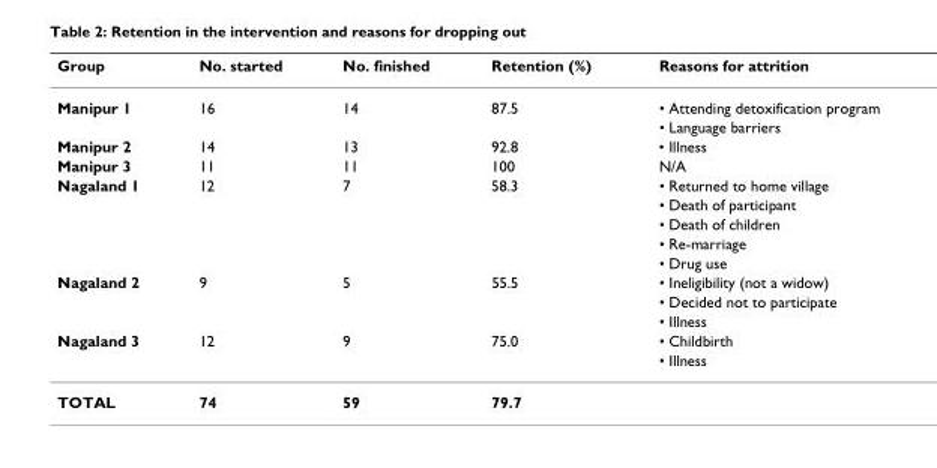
<table><thead><tr><td>Group</td><td>No. started</td><td>No. finished</td><td>Retention (%)</td><td>Reasons for attrition</td></tr></thead><tbody><tr><td rowspan="2">Manipur 1</td><td>16</td><td>14</td><td>87.5</td><td>• Attending detoxification program</td></tr><tr><td></td><td></td><td></td><td>• Language barriers</td></tr><tr><td>Manipur 2</td><td>14</td><td>13</td><td>92.8</td><td>• Illness</td></tr><tr><td>Manipur 3</td><td>11</td><td>11</td><td>100</td><td>N/A</td></tr><tr><td rowspan="5">Nagaland 1</td><td>12</td><td>7</td><td>58.3</td><td>• Returned to home village</td></tr><tr><td></td><td></td><td></td><td>• Death of participant</td></tr><tr><td></td><td></td><td></td><td>• Death of children</td></tr><tr><td></td><td></td><td></td><td>• Re-marriage</td></tr><tr><td></td><td></td><td></td><td>• Drug use</td></tr><tr><td rowspan="3">Nagaland 2</td><td>9</td><td>5</td><td>55.5</td><td>• Ineligibility (not a widow)</td></tr><tr><td></td><td></td><td></td><td>• Decided not to participate</td></tr><tr><td></td><td></td><td></td><td>• Illness</td></tr><tr><td rowspan="2">Nagaland 3</td><td>12</td><td>9</td><td>75.0</td><td>• Childbirth</td></tr><tr><td></td><td></td><td></td><td>• Illness</td></tr><tr><td>TOTAL</td><td>74</td><td>59</td><td>79.7</td><td></td></tr></tbody></table>